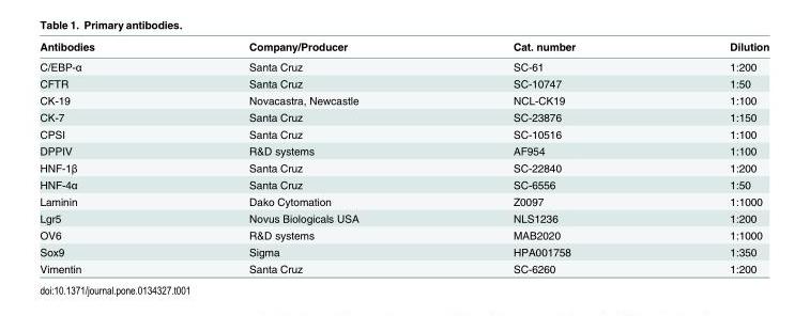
<table><thead><tr><td>Antibodies</td><td>Company/Producer</td><td>Cat. number</td><td>Dilution</td></tr></thead><tbody><tr><td>C/EBP-α</td><td>Santa Cruz</td><td>SC-61</td><td>1:200</td></tr><tr><td>CFTR</td><td>Santa Cruz</td><td>SC-10747</td><td>1:50</td></tr><tr><td>CK-19</td><td>Novacastra, Newcastle</td><td>NCL-CK19</td><td>1:100</td></tr><tr><td>CK-7</td><td>Santa Cruz</td><td>SC-23876</td><td>1:150</td></tr><tr><td>CPSI</td><td>Santa Cruz</td><td>SC-10516</td><td>1:100</td></tr><tr><td>DPPIV</td><td>R&amp;D systems</td><td>AF954</td><td>1:100</td></tr><tr><td>HNF-1β</td><td>Santa Cruz</td><td>SC-22840</td><td>1:200</td></tr><tr><td>HNF-4α</td><td>Santa Cruz</td><td>SC-6556</td><td>1:50</td></tr><tr><td>Laminin</td><td>Dako Cytomation</td><td>Z0097</td><td>1:1000</td></tr><tr><td>Lgr5</td><td>Novus Biologicals USA</td><td>NLS1236</td><td>1:200</td></tr><tr><td>OV6</td><td>R&amp;D systems</td><td>MAB2020</td><td>1:1000</td></tr><tr><td>Sox9</td><td>Sigma</td><td>HPA001758</td><td>1:350</td></tr><tr><td>Vimentin</td><td>Santa Cruz</td><td>SC-6260</td><td>1:200</td></tr></tbody></table>